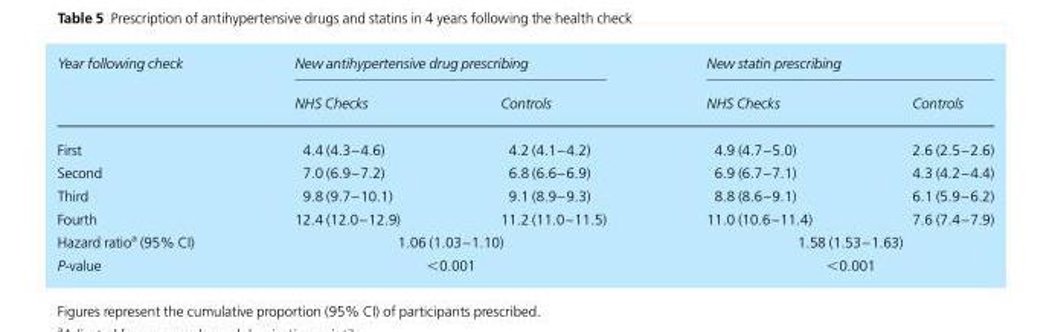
<table><thead><tr><td rowspan="2">Year following check</td><td colspan="2">New antihypertensive drug prescribing</td><td colspan="2">New statin prescribing</td></tr><tr><td>NHS Checks</td><td>Controls</td><td>NHS Checks</td><td>Controls</td></tr></thead><tbody><tr><td>First</td><td>4.4 (4.3–4.6)</td><td>4.2 (4.1–4.2)</td><td>4.9 (4.7–5.0)</td><td>2.6 (2.5–2.6)</td></tr><tr><td>Second</td><td>7.0 (6.9–7.2)</td><td>6.8 (6.6–6.9)</td><td>6.9 (6.7–7.1)</td><td>4.3 (4.2–4.4)</td></tr><tr><td>Third</td><td>9.8 (9.7–10.1)</td><td>9.1 (8.9–9.3)</td><td>8.8 (8.6–9.1)</td><td>6.1 (5.9–6.2)</td></tr><tr><td>Fourth</td><td>12.4 (12.0–12.9)</td><td>11.2 (11.0–11.5)</td><td>11.0 (10.6–11.4)</td><td>7.6 (7.4–7.9)</td></tr><tr><td>Hazard ratio<sup>a</sup> (95% CI)</td><td colspan="2">1.06 (1.03–1.10)</td><td colspan="2">1.58 (1.53–1.63)</td></tr><tr><td>P-value</td><td colspan="2">&lt;0.001</td><td colspan="2">&lt;0.001</td></tr></tbody></table>